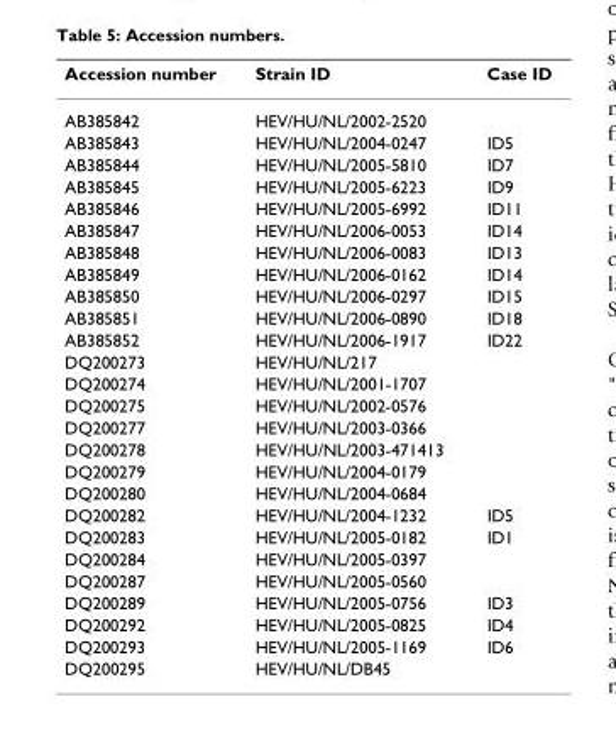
<table><thead><tr><td>Accession number</td><td>Strain ID</td><td>Case ID</td></tr></thead><tbody><tr><td>AB385842</td><td>HEV/HU/NL/2002-2520</td><td></td></tr><tr><td>AB385843</td><td>HEV/HU/NL/2004-0247</td><td>ID5</td></tr><tr><td>AB385844</td><td>HEV/HU/NL/2005-5810</td><td>ID7</td></tr><tr><td>AB385845</td><td>HEV/HU/NL/2005-6223</td><td>ID9</td></tr><tr><td>AB385846</td><td>HEV/HU/NL/2005-6992</td><td>ID11</td></tr><tr><td>AB385847</td><td>HEV/HU/NL/2006-0053</td><td>ID14</td></tr><tr><td>AB385848</td><td>HEV/HU/NL/2006-0083</td><td>ID13</td></tr><tr><td>AB385849</td><td>HEV/HU/NL/2006-0162</td><td>ID14</td></tr><tr><td>AB385850</td><td>HEV/HU/NL/2006-0297</td><td>ID15</td></tr><tr><td>AB385851</td><td>HEV/HU/NL/2006-0890</td><td>ID18</td></tr><tr><td>AB385852</td><td>HEV/HU/NL/2006-1917</td><td>ID22</td></tr><tr><td>DQ200273</td><td>HEV/HU/NL/217</td><td></td></tr><tr><td>DQ200274</td><td>HEV/HU/NL/2001-1707</td><td></td></tr><tr><td>DQ200275</td><td>HEV/HU/NL/2002-0576</td><td></td></tr><tr><td>DQ200277</td><td>HEV/HU/NL/2003-0366</td><td></td></tr><tr><td>DQ200278</td><td>HEV/HU/NL/2003-471413</td><td></td></tr><tr><td>DQ200279</td><td>HEV/HU/NL/2004-0179</td><td></td></tr><tr><td>DQ200280</td><td>HEV/HU/NL/2004-0684</td><td></td></tr><tr><td>DQ200282</td><td>HEV/HU/NL/2004-1232</td><td>ID5</td></tr><tr><td>DQ200283</td><td>HEV/HU/NL/2005-0182</td><td>ID1</td></tr><tr><td>DQ200284</td><td>HEV/HU/NL/2005-0397</td><td></td></tr><tr><td>DQ200287</td><td>HEV/HU/NL/2005-0560</td><td></td></tr><tr><td>DQ200289</td><td>HEV/HU/NL/2005-0756</td><td>ID3</td></tr><tr><td>DQ200292</td><td>HEV/HU/NL/2005-0825</td><td>ID4</td></tr><tr><td>DQ200293</td><td>HEV/HU/NL/2005-1169</td><td>ID6</td></tr><tr><td>DQ200295</td><td>HEV/HU/NL/DB45</td><td></td></tr></tbody></table>